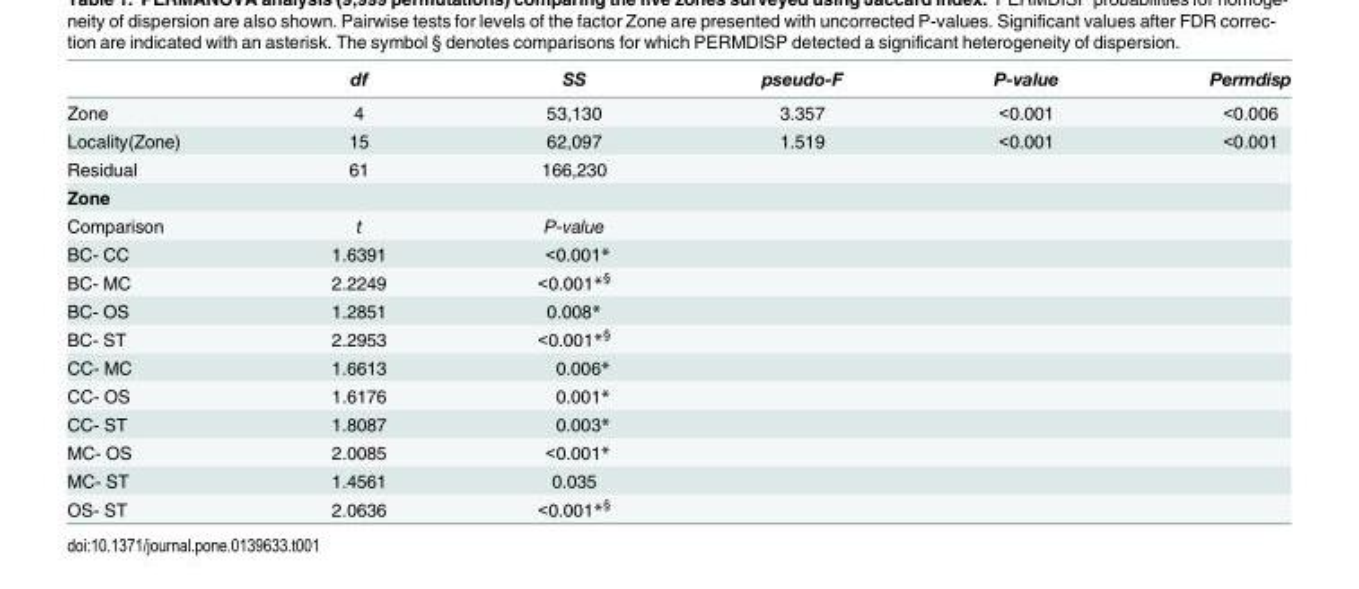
<table><thead><tr><td></td><td>df</td><td>SS</td><td>pseudo-F</td><td>P-value</td><td>Permdisp</td></tr></thead><tbody><tr><td>Zone</td><td>4</td><td>53,130</td><td>3.357</td><td>&lt;0.001</td><td>&lt;0.006</td></tr><tr><td>Locality(Zone)</td><td>15</td><td>62,097</td><td>1.519</td><td>&lt;0.001</td><td>&lt;0.001</td></tr><tr><td>Residual</td><td>61</td><td>166,230</td><td></td><td></td><td></td></tr><tr><td colspan="6">Zone</td></tr><tr><td>Comparison</td><td>t</td><td>P-value</td><td></td><td></td><td></td></tr><tr><td>BC- CC</td><td>1.6391</td><td>&lt;0.001*</td><td></td><td></td><td></td></tr><tr><td>BC- MC</td><td>2.2249</td><td>&lt;0.001*<sup>§</sup></td><td></td><td></td><td></td></tr><tr><td>BC- OS</td><td>1.2851</td><td>0.008*</td><td></td><td></td><td></td></tr><tr><td>BC- ST</td><td>2.2953</td><td>&lt;0.001*<sup>§</sup></td><td></td><td></td><td></td></tr><tr><td>CC- MC</td><td>1.6613</td><td>0.006*</td><td></td><td></td><td></td></tr><tr><td>CC- OS</td><td>1.6176</td><td>0.001*</td><td></td><td></td><td></td></tr><tr><td>CC- ST</td><td>1.8087</td><td>0.003*</td><td></td><td></td><td></td></tr><tr><td>MC- OS</td><td>2.0085</td><td>&lt;0.001*</td><td></td><td></td><td></td></tr><tr><td>MC- ST</td><td>1.4561</td><td>0.035</td><td></td><td></td><td></td></tr><tr><td>OS- ST</td><td>2.0636</td><td>&lt;0.001*<sup>§</sup></td><td></td><td></td><td></td></tr></tbody></table>